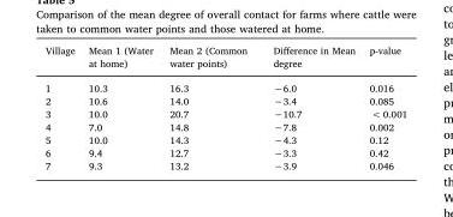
<table><thead><tr><td>Village</td><td>Mean 1 (Water at home)</td><td>Mean 2 (Common water points)</td><td>Difference in Mean degree</td><td>p-value</td></tr></thead><tbody><tr><td>1</td><td>10.3</td><td>16.3</td><td>−6.0</td><td>0.016</td></tr><tr><td>2</td><td>10.6</td><td>14.0</td><td>−3.4</td><td>0.085</td></tr><tr><td>3</td><td>10.0</td><td>20.7</td><td>−10.7</td><td>&lt; 0.001</td></tr><tr><td>4</td><td>7.0</td><td>14.8</td><td>−7.8</td><td>0.002</td></tr><tr><td>5</td><td>10.0</td><td>14.3</td><td>−4.3</td><td>0.12</td></tr><tr><td>6</td><td>9.4</td><td>12.7</td><td>−3.3</td><td>0.42</td></tr><tr><td>7</td><td>9.3</td><td>13.2</td><td>−3.9</td><td>0.046</td></tr></tbody></table>